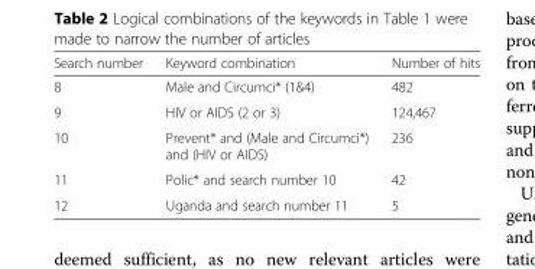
<table><tbody><tr><td>Search number</td><td>Keyword combination</td><td>Number of hits</td></tr><tr><td>8</td><td>Male and Circumci* (1&amp;4)</td><td>482</td></tr><tr><td>9</td><td>HIV or AIDS (2 or 3)</td><td>124,467</td></tr><tr><td>10</td><td>Prevent* and (Male and Circumci*) and (HIV or AIDS)</td><td>236</td></tr><tr><td>11</td><td>Polic* and search number 10</td><td>42</td></tr><tr><td>12</td><td>Uganda and search number 11</td><td>5</td></tr></tbody></table>